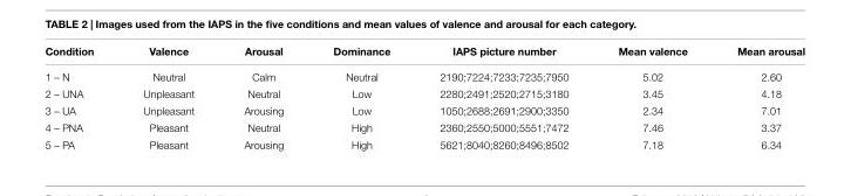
<table><thead><tr><td>Condition</td><td>Valence</td><td>Arousal</td><td>Dominance</td><td>IAPS picture number</td><td>Mean valence</td><td>Mean arousal</td></tr></thead><tbody><tr><td>1 – N</td><td>Neutral</td><td>Calm</td><td>Neutral</td><td>2190;7224;7233;7235;7950</td><td>5.02</td><td>2.60</td></tr><tr><td>2 – UNA</td><td>Unpleasant</td><td>Neutral</td><td>Low</td><td>2280;2491;2520;2715;3180</td><td>3.45</td><td>4.18</td></tr><tr><td>3 – UA</td><td>Unpleasant</td><td>Arousing</td><td>Low</td><td>1050;2688;2691;2900;3350</td><td>2.34</td><td>7.01</td></tr><tr><td>4 – PNA</td><td>Pleasant</td><td>Neutral</td><td>High</td><td>2360;2550;5000;5551;7472</td><td>7.46</td><td>3.37</td></tr><tr><td>5 – PA</td><td>Pleasant</td><td>Arousing</td><td>High</td><td>5621;8040;8260;8496;8502</td><td>7.18</td><td>6.34</td></tr></tbody></table>